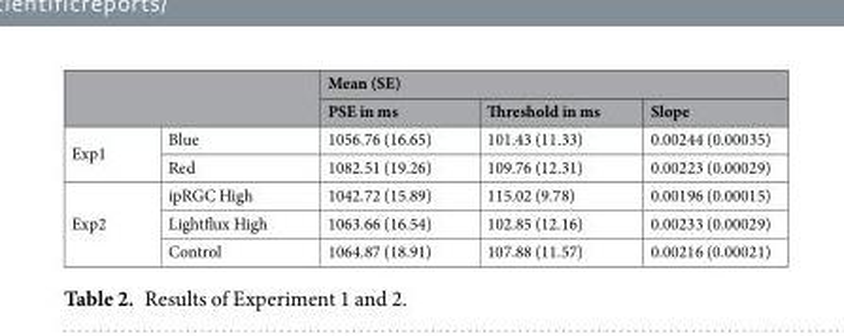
<table><thead><tr><td rowspan="2"></td><td rowspan="2"></td><td colspan="3">Mean (SE)</td></tr><tr><td>PSE in ms</td><td>Threshold in ms</td><td>Slope</td></tr></thead><tbody><tr><td rowspan="2">Exp1</td><td>Blue</td><td>1056.76 (16.65)</td><td>101.43 (11.33)</td><td>0.00244 (0.00035)</td></tr><tr><td>Red</td><td>1082.51 (19.26)</td><td>109.76 (12.31)</td><td>0.00223 (0.00029)</td></tr><tr><td rowspan="3">Exp2</td><td>ipRGC High</td><td>1042.72 (15.89)</td><td>115.02 (9.78)</td><td>0.00196 (0.00015)</td></tr><tr><td>Lightflux High</td><td>1063.66 (16.54)</td><td>102.85 (12.16)</td><td>0.00233 (0.00029)</td></tr><tr><td>Control</td><td>1064.87 (18.91)</td><td>107.88 (11.57)</td><td>0.00216 (0.00021)</td></tr></tbody></table>